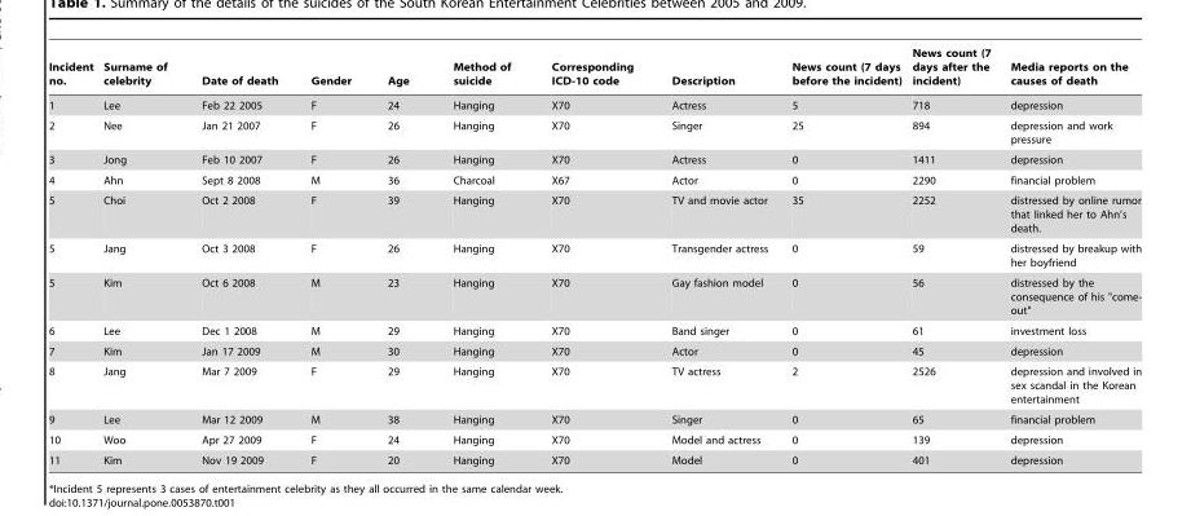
<table><thead><tr><td>Incident no.</td><td>Surname of celebrity</td><td>Date of death</td><td>Gender</td><td>Age</td><td>Method of suicide</td><td>Corresponding ICD-10 code</td><td>Description</td><td>News count (7 days before the incident)</td><td>News count (7 days after the incident)</td><td>Media reports on the causes of death</td></tr></thead><tbody><tr><td>1</td><td>Lee</td><td>Feb 22 2005</td><td>F</td><td>24</td><td>Hanging</td><td>X70</td><td>Actress</td><td>5</td><td>718</td><td>depression</td></tr><tr><td>2</td><td>Nee</td><td>Jan 21 2007</td><td>F</td><td>26</td><td>Hanging</td><td>X70</td><td>Singer</td><td>25</td><td>894</td><td>depression and work pressure</td></tr><tr><td>3</td><td>Jong</td><td>Feb 10 2007</td><td>F</td><td>26</td><td>Hanging</td><td>X70</td><td>Actress</td><td>0</td><td>1411</td><td>depression</td></tr><tr><td>4</td><td>Ahn</td><td>Sept 8 2008</td><td>M</td><td>36</td><td>Charcoal</td><td>X67</td><td>Actor</td><td>0</td><td>2290</td><td>financial problem</td></tr><tr><td>5</td><td>Choi</td><td>Oct 2 2008</td><td>F</td><td>39</td><td>Hanging</td><td>X70</td><td>TV and movie actor</td><td>35</td><td>2252</td><td>distressed by online rumor that linked her to Ahn’s death.</td></tr><tr><td>5</td><td>Jang</td><td>Oct 3 2008</td><td>F</td><td>26</td><td>Hanging</td><td>X70</td><td>Transgender actress</td><td>0</td><td>59</td><td>distressed by breakup with her boyfriend</td></tr><tr><td>5</td><td>Kim</td><td>Oct 6 2008</td><td>M</td><td>23</td><td>Hanging</td><td>X70</td><td>Gay fashion model</td><td>0</td><td>56</td><td>distressed by the consequence of his &quot;come- out&quot;</td></tr><tr><td>6</td><td>Lee</td><td>Dec 1 2008</td><td>M</td><td>29</td><td>Hanging</td><td>X70</td><td>Band singer</td><td>0</td><td>61</td><td>investment loss</td></tr><tr><td>7</td><td>Kim</td><td>Jan 17 2009</td><td>M</td><td>30</td><td>Hanging</td><td>X70</td><td>Actor</td><td>0</td><td>45</td><td>depression</td></tr><tr><td>8</td><td>Jang</td><td>Mar 7 2009</td><td>F</td><td>29</td><td>Hanging</td><td>X70</td><td>TV actress</td><td>2</td><td>2526</td><td>depression and involved in sex scandal in the Korean entertainment</td></tr><tr><td>9</td><td>Lee</td><td>Mar 12 2009</td><td>M</td><td>38</td><td>Hanging</td><td>X70</td><td>Singer</td><td>0</td><td>65</td><td>financial problem</td></tr><tr><td>10</td><td>Woo</td><td>Apr 27 2009</td><td>F</td><td>24</td><td>Hanging</td><td>X70</td><td>Model and actress</td><td>0</td><td>139</td><td>depression</td></tr><tr><td>11</td><td>Kim</td><td>Nov 19 2009</td><td>F</td><td>20</td><td>Hanging</td><td>X70</td><td>Model</td><td>0</td><td>401</td><td>depression</td></tr></tbody></table>